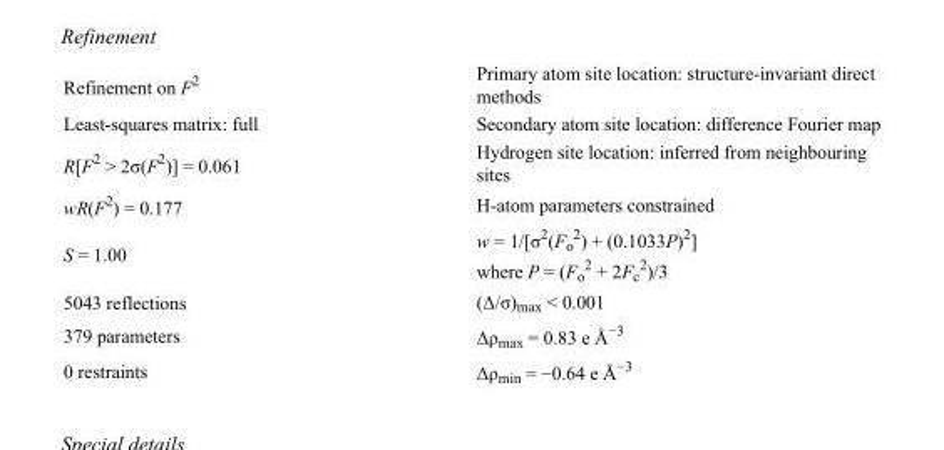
<table><tbody><tr><td>Refinement on F<sup>2</sup></td><td>Primary atom site location: structure-invariant direct methods</td></tr><tr><td>Least-squares matrix: full</td><td>Secondary atom site location: difference Fourier map</td></tr><tr><td>R[F<sup>2</sup> &gt; 2σ(F<sup>2</sup>)] = 0.061</td><td>Hydrogen site location: inferred from neighbouring sites</td></tr><tr><td>wR(F<sup>2</sup>) = 0.177</td><td>H-atom parameters constrained</td></tr><tr><td>S = 1.00</td><td>w = 1/[σ<sup>2</sup>(F<sub>o</sub> <sup>2</sup>) + (0.1033P)<sup>2</sup>] where P = (F<sub>o</sub> <sup>2</sup> + 2F<sub>c</sub> <sup>2</sup>)/3</td></tr><tr><td>5043 reflections</td><td>(Δ/σ)<sub>max</sub> &lt; 0.001</td></tr><tr><td>379 parameters</td><td>Δρ<sub>max</sub> = 0.83 e Å<sup>−3</sup></td></tr><tr><td>0 restraints</td><td>Δρ<sub>min</sub> = −0.64 e Å<sup>−3</sup></td></tr></tbody></table>